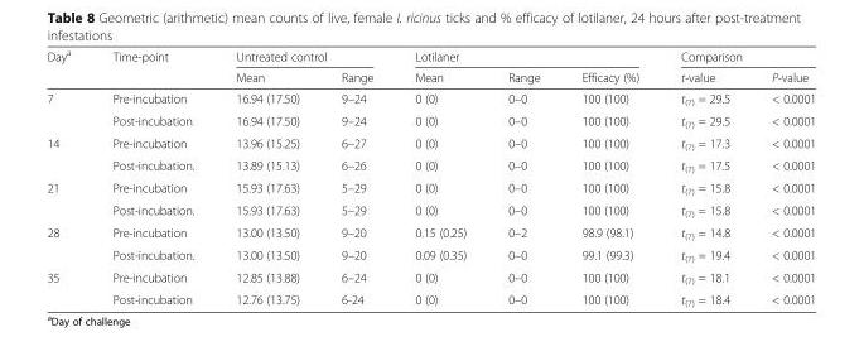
<table><thead><tr><td rowspan="2">Day<sup>a</sup></td><td rowspan="2">Time-point</td><td colspan="2">Untreated control</td><td colspan="3">Lotilaner</td><td colspan="2">Comparison</td></tr><tr><td>Mean</td><td>Range</td><td>Mean</td><td>Range</td><td>Efficacy (%)</td><td>t-value</td><td>P-value</td></tr></thead><tbody><tr><td rowspan="2">7</td><td>Pre-incubation</td><td>16.94 (17.50)</td><td>9–24</td><td>0 (0)</td><td>0–0</td><td>100 (100)</td><td>t<sub>(7)</sub> = 29.5</td><td>&lt; 0.0001</td></tr><tr><td>Post-incubation</td><td>16.94 (17.50)</td><td>9–24</td><td>0 (0)</td><td>0–0</td><td>100 (100)</td><td>t<sub>(7)</sub> = 29.5</td><td>&lt; 0.0001</td></tr><tr><td rowspan="2">14</td><td>Pre-incubation</td><td>13.96 (15.25)</td><td>6–27</td><td>0 (0)</td><td>0–0</td><td>100 (100)</td><td>t<sub>(7)</sub> = 17.3</td><td>&lt; 0.0001</td></tr><tr><td>Post-incubation.</td><td>13.89 (15.13)</td><td>6–26</td><td>0 (0)</td><td>0–0</td><td>100 (100)</td><td>t<sub>(7)</sub> = 17.5</td><td>&lt; 0.0001</td></tr><tr><td rowspan="2">21</td><td>Pre-incubation</td><td>15.93 (17.63)</td><td>5–29</td><td>0 (0)</td><td>0–0</td><td>100 (100)</td><td>t<sub>(7)</sub> = 15.8</td><td>&lt; 0.0001</td></tr><tr><td>Post-incubation.</td><td>15.93 (17.63)</td><td>5–29</td><td>0 (0)</td><td>0–0</td><td>100 (100)</td><td>t<sub>(7)</sub> = 15.8</td><td>&lt; 0.0001</td></tr><tr><td rowspan="2">28</td><td>Pre-incubation</td><td>13.00 (13.50)</td><td>9–20</td><td>0.15 (0.25)</td><td>0–2</td><td>98.9 (98.1)</td><td>t<sub>(7)</sub> = 14.8</td><td>&lt; 0.0001</td></tr><tr><td>Post-incubation.</td><td>13.00 (13.50)</td><td>9–20</td><td>0.09 (0.35)</td><td>0–0</td><td>99.1 (99.3)</td><td>t<sub>(7)</sub> = 19.4</td><td>&lt; 0.0001</td></tr><tr><td rowspan="2">35</td><td>Pre-incubation</td><td>12.85 (13.88)</td><td>6–24</td><td>0 (0)</td><td>0–0</td><td>100 (100)</td><td>t<sub>(7)</sub> = 18.1</td><td>&lt; 0.0001</td></tr><tr><td>Post-incubation</td><td>12.76 (13.75)</td><td>6-24</td><td>0 (0)</td><td>0–0</td><td>100 (100)</td><td>t<sub>(7)</sub> = 18.4</td><td>&lt; 0.0001</td></tr></tbody></table>